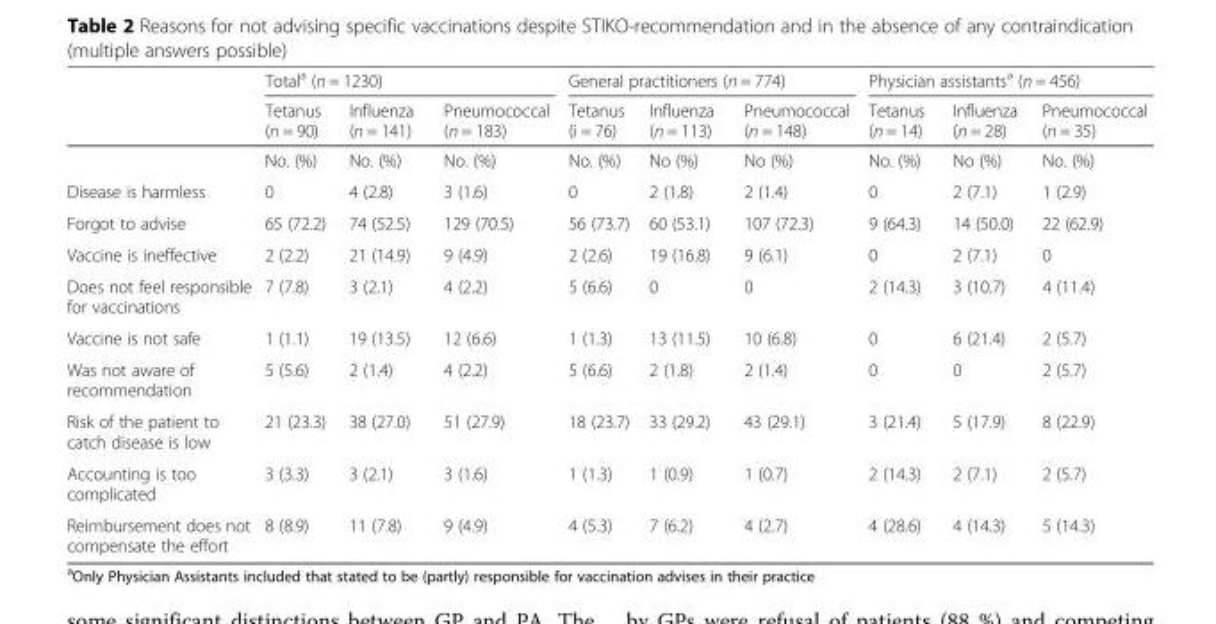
<table><thead><tr><td rowspan="2"></td><td colspan="3">Total<sup>a</sup> (n = 1230)</td><td colspan="3">General practitioners (n = 774)</td><td colspan="3">Physician assistants<sup>a</sup> (n = 456)</td></tr><tr><td>Tetanus (n = 90)</td><td>Influenza (n = 141)</td><td>Pneumococcal (n = 183)</td><td>Tetanus (i = 76)</td><td>Influenza (n = 113)</td><td>Pneumococcal (n = 148)</td><td>Tetanus (n = 14)</td><td>Influenza (n = 28)</td><td>Pneumococcal (n = 35)</td></tr></thead><tbody><tr><td></td><td>No. (%)</td><td>No. (%)</td><td>No. (%)</td><td>No. (%)</td><td>No (%)</td><td>No (%)</td><td>No. (%)</td><td>No (%)</td><td>No. (%)</td></tr><tr><td>Disease is harmless</td><td>0</td><td>4 (2.8)</td><td>3 (1.6)</td><td>0</td><td>2 (1.8)</td><td>2 (1.4)</td><td>0</td><td>2 (7.1)</td><td>1 (2.9)</td></tr><tr><td>Forgot to advise</td><td>65 (72.2)</td><td>74 (52.5)</td><td>129 (70.5)</td><td>56 (73.7)</td><td>60 (53.1)</td><td>107 (72.3)</td><td>9 (64.3)</td><td>14 (50.0)</td><td>22 (62.9)</td></tr><tr><td>Vaccine is ineffective</td><td>2 (2.2)</td><td>21 (14.9)</td><td>9 (4.9)</td><td>2 (2.6)</td><td>19 (16.8)</td><td>9 (6.1)</td><td>0</td><td>2 (7.1)</td><td>0</td></tr><tr><td>Does not feel responsible for vaccinations</td><td>7 (7.8)</td><td>3 (2.1)</td><td>4 (2.2)</td><td>5 (6.6)</td><td>0</td><td>0</td><td>2 (14.3)</td><td>3 (10.7)</td><td>4 (11.4)</td></tr><tr><td>Vaccine is not safe</td><td>1 (1.1)</td><td>19 (13.5)</td><td>12 (6.6)</td><td>1 (1.3)</td><td>13 (11.5)</td><td>10 (6.8)</td><td>0</td><td>6 (21.4)</td><td>2 (5.7)</td></tr><tr><td>Was not aware of recommendation</td><td>5 (5.6)</td><td>2 (1.4)</td><td>4 (2.2)</td><td>5 (6.6)</td><td>2 (1.8)</td><td>2 (1.4)</td><td>0</td><td>0</td><td>2 (5.7)</td></tr><tr><td>Risk of the patient to catch disease is low</td><td>21 (23.3)</td><td>38 (27.0)</td><td>51 (27.9)</td><td>18 (23.7)</td><td>33 (29.2)</td><td>43 (29.1)</td><td>3 (21.4)</td><td>5 (17.9)</td><td>8 (22.9)</td></tr><tr><td>Accounting is too complicated</td><td>3 (3.3)</td><td>3 (2.1)</td><td>3 (1.6)</td><td>1 (1.3)</td><td>1 (0.9)</td><td>1 (0.7)</td><td>2 (14.3)</td><td>2 (7.1)</td><td>2 (5.7)</td></tr><tr><td>Reimbursement does not compensate the effort</td><td>8 (8.9)</td><td>11 (7.8)</td><td>9 (4.9)</td><td>4 (5.3)</td><td>7 (6.2)</td><td>4 (2.7)</td><td>4 (28.6)</td><td>4 (14.3)</td><td>5 (14.3)</td></tr></tbody></table>